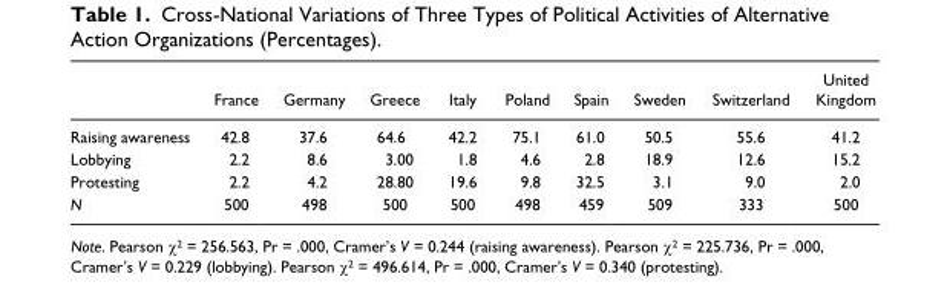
<table><thead><tr><td></td><td>France</td><td>Germany</td><td>Greece</td><td>Italy</td><td>Poland</td><td>Spain</td><td>Sweden</td><td>Switzerland</td><td>United Kingdom</td></tr></thead><tbody><tr><td>Raising awareness</td><td>42.8</td><td>37.6</td><td>64.6</td><td>42.2</td><td>75.1</td><td>61.0</td><td>50.5</td><td>55.6</td><td>41.2</td></tr><tr><td>Lobbying</td><td>2.2</td><td>8.6</td><td>3.00</td><td>1.8</td><td>4.6</td><td>2.8</td><td>18.9</td><td>12.6</td><td>15.2</td></tr><tr><td>Protesting</td><td>2.2</td><td>4.2</td><td>28.80</td><td>19.6</td><td>9.8</td><td>32.5</td><td>3.1</td><td>9.0</td><td>2.0</td></tr><tr><td>N</td><td>500</td><td>498</td><td>500</td><td>500</td><td>498</td><td>459</td><td>509</td><td>333</td><td>500</td></tr></tbody></table>